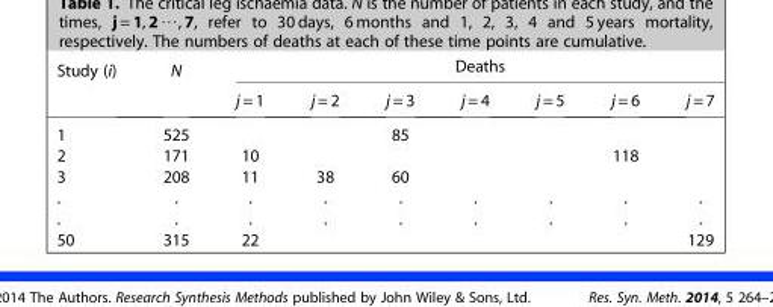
<table><thead><tr><td rowspan="2">Study (i)</td><td rowspan="2">N</td><td colspan="7">Deaths</td></tr><tr><td>j = 1</td><td>j = 2</td><td>j = 3</td><td>j = 4</td><td>j = 5</td><td>j = 6</td><td>j = 7</td></tr></thead><tbody><tr><td>1</td><td>525</td><td></td><td></td><td>85</td><td></td><td></td><td></td><td></td></tr><tr><td>2</td><td>171</td><td>10</td><td></td><td></td><td></td><td></td><td>118</td><td></td></tr><tr><td>3</td><td>208</td><td>11</td><td>38</td><td>60</td><td></td><td></td><td></td><td></td></tr><tr><td>.</td><td>.</td><td>.</td><td>.</td><td>.</td><td>.</td><td>.</td><td>.</td><td>.</td></tr><tr><td>.</td><td>.</td><td>.</td><td>.</td><td>.</td><td>.</td><td>.</td><td>.</td><td>.</td></tr><tr><td>50</td><td>315</td><td>22</td><td></td><td></td><td></td><td></td><td></td><td>129</td></tr></tbody></table>